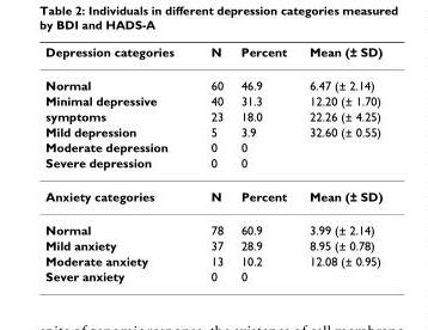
<table><thead><tr><td>Depression categories</td><td>N</td><td>Percent</td><td>Mean (± SD)</td></tr></thead><tbody><tr><td>Normal</td><td>60</td><td>46.9</td><td>6.47 (± 2.14)</td></tr><tr><td>Minimal depressive</td><td>40</td><td>31.3</td><td>12.20 (± 1.70)</td></tr><tr><td>symptoms</td><td>23</td><td>18.0</td><td>22.26 (± 4.25)</td></tr><tr><td>Mild depression</td><td>5</td><td>3.9</td><td>32.60 (± 0.55)</td></tr><tr><td>Moderate depression</td><td>0</td><td>0</td><td></td></tr><tr><td>Severe depression</td><td>0</td><td>0</td><td></td></tr><tr><td>Anxiety categories</td><td>N</td><td>Percent</td><td>Mean (± SD)</td></tr><tr><td>Normal</td><td>78</td><td>60.9</td><td>3.99 (± 2.14)</td></tr><tr><td>Mild anxiety</td><td>37</td><td>28.9</td><td>8.95 (± 0.78)</td></tr><tr><td>Moderate anxiety</td><td>13</td><td>10.2</td><td>12.08 (± 0.95)</td></tr><tr><td>Sever anxiety</td><td>0</td><td>0</td><td></td></tr></tbody></table>